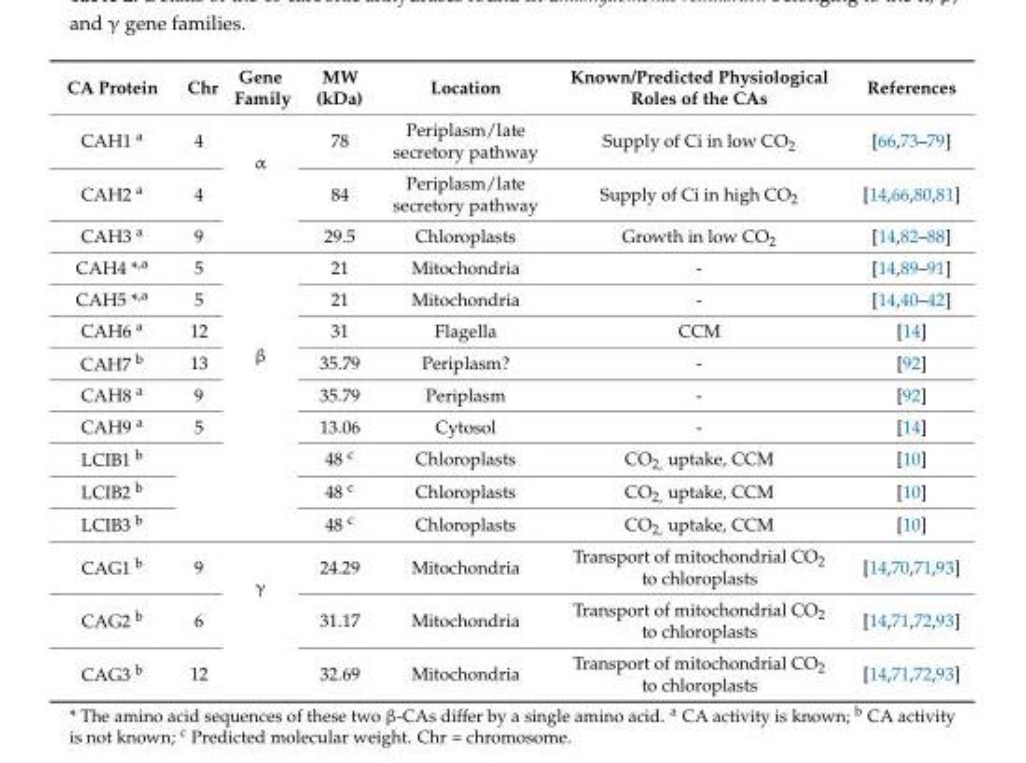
<table><thead><tr><td>CA Protein</td><td>Chr</td><td>Gene Family</td><td>MW (kDa)</td><td>Location</td><td>Known/Predicted Physiological Roles of the CAs</td><td>References</td></tr></thead><tbody><tr><td>CAH1 <sup>a</sup></td><td>4</td><td rowspan="3">α</td><td>78</td><td>Periplasm/late secretory pathway</td><td>Supply of Ci in low CO<sub>2</sub></td><td>[66,73–79]</td></tr><tr><td>CAH2 <sup>a</sup></td><td>4</td><td>84</td><td>Periplasm/late secretory pathway</td><td>Supply of Ci in high CO<sub>2</sub></td><td>[14,66,80,81]</td></tr><tr><td>CAH3 <sup>a</sup></td><td>9</td><td>29.5</td><td>Chloroplasts</td><td>Growth in low CO<sub>2</sub></td><td>[14,82–88]</td></tr><tr><td>CAH4 *<sup>,a</sup></td><td>5</td><td rowspan="9">β</td><td>21</td><td>Mitochondria</td><td>-</td><td>[14,89–91]</td></tr><tr><td>CAH5 *<sup>,a</sup></td><td>5</td><td>21</td><td>Mitochondria</td><td>-</td><td>[14,40–42]</td></tr><tr><td>CAH6 <sup>a</sup></td><td>12</td><td>31</td><td>Flagella</td><td>CCM</td><td>[14]</td></tr><tr><td>CAH7 <sup>b</sup></td><td>13</td><td>35.79</td><td>Periplasm?</td><td>-</td><td>[92]</td></tr><tr><td>CAH8 <sup>a</sup></td><td>9</td><td>35.79</td><td>Periplasm</td><td>-</td><td>[92]</td></tr><tr><td>CAH9 <sup>a</sup></td><td>5</td><td>13.06</td><td>Cytosol</td><td>-</td><td>[14]</td></tr><tr><td>LCIB1 <sup>b</sup></td><td rowspan="3"></td><td>48 <sup>c</sup></td><td>Chloroplasts</td><td>CO<sub>2,</sub> uptake, CCM</td><td>[10]</td></tr><tr><td>LCIB2 <sup>b</sup></td><td>48 <sup>c</sup></td><td>Chloroplasts</td><td>CO<sub>2,</sub> uptake, CCM</td><td>[10]</td></tr><tr><td>LCIB3 <sup>b</sup></td><td>48 <sup>c</sup></td><td>Chloroplasts</td><td>CO<sub>2,</sub> uptake, CCM</td><td>[10]</td></tr><tr><td>CAG1 <sup>b</sup></td><td>9</td><td rowspan="3">γ</td><td>24.29</td><td>Mitochondria</td><td>Transport of mitochondrial CO<sub>2</sub> to chloroplasts</td><td>[14,70,71,93]</td></tr><tr><td>CAG2 <sup>b</sup></td><td>6</td><td>31.17</td><td>Mitochondria</td><td>Transport of mitochondrial CO<sub>2</sub> to chloroplasts</td><td>[14,71,72,93]</td></tr><tr><td>CAG3 <sup>b</sup></td><td>12</td><td>32.69</td><td>Mitochondria</td><td>Transport of mitochondrial CO<sub>2</sub> to chloroplasts</td><td>[14,71,72,93]</td></tr></tbody></table>